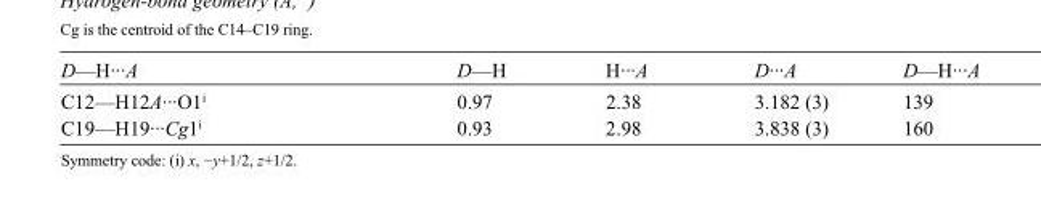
<table><tbody><tr><td>D—H···A</td><td>D—H</td><td>H···A</td><td>D···A</td><td>D—H···A</td></tr><tr><td>C12—H12A···O1<sup>i</sup></td><td>0.97</td><td>2.38</td><td>3.182 (3)</td><td>139</td></tr><tr><td>C19—H19···Cg1<sup>i</sup></td><td>0.93</td><td>2.98</td><td>3.838 (3)</td><td>160</td></tr></tbody></table>